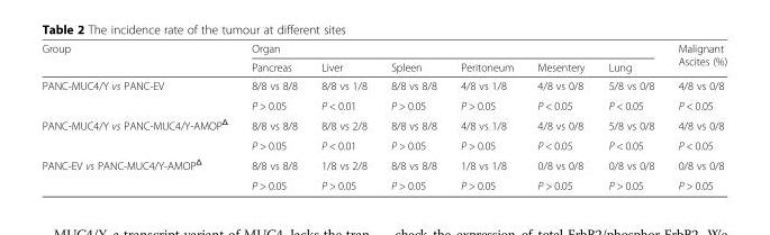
<table><thead><tr><td rowspan="2">Group</td><td colspan="6">Organ</td><td rowspan="2">Malignant Ascites (%)</td></tr><tr><td>Pancreas</td><td>Liver</td><td>Spleen</td><td>Peritoneum</td><td>Mesentery</td><td>Lung</td></tr></thead><tbody><tr><td rowspan="2">PANC-MUC4/Y vs PANC-EV</td><td>8/8 vs 8/8</td><td>8/8 vs 1/8</td><td>8/8 vs 8/8</td><td>4/8 vs 1/8</td><td>4/8 vs 0/8</td><td>5/8 vs 0/8</td><td>4/8 vs 0/8</td></tr><tr><td>P &gt; 0.05</td><td>P &lt; 0.01</td><td>P &gt; 0.05</td><td>P &gt; 0.05</td><td>P &lt; 0.05</td><td>P &lt; 0.05</td><td>P &lt; 0.05</td></tr><tr><td rowspan="2">PANC-MUC4/Y vs PANC-MUC4/Y-AMOP<sup>Δ</sup></td><td>8/8 vs 8/8</td><td>8/8 vs 2/8</td><td>8/8 vs 8/8</td><td>4/8 vs 1/8</td><td>4/8 vs 0/8</td><td>5/8 vs 0/8</td><td>4/8 vs 0/8</td></tr><tr><td>P &gt; 0.05</td><td>P &lt; 0.01</td><td>P &gt; 0.05</td><td>P &gt; 0.05</td><td>P &lt; 0.05</td><td>P &lt; 0.05</td><td>P &lt; 0.05</td></tr><tr><td rowspan="2">PANC-EV vs PANC-MUC4/Y-AMOP<sup>Δ</sup></td><td>8/8 vs 8/8</td><td>1/8 vs 2/8</td><td>8/8 vs 8/8</td><td>1/8 vs 1/8</td><td>0/8 vs 0/8</td><td>0/8 vs 0/8</td><td>0/8 vs 0/8</td></tr><tr><td>P &gt; 0.05</td><td>P &gt; 0.05</td><td>P &gt; 0.05</td><td>P &gt; 0.05</td><td>P &gt; 0.05</td><td>P &gt; 0.05</td><td>P &gt; 0.05</td></tr></tbody></table>